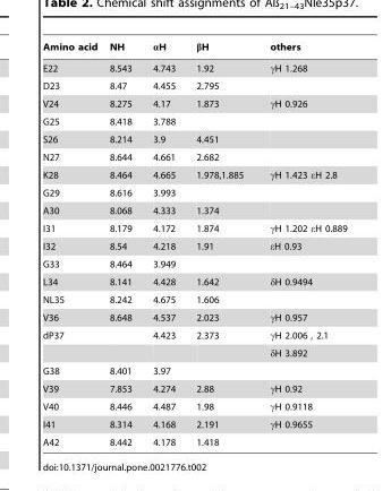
<table><thead><tr><td>Amino acid</td><td>NH</td><td>αH</td><td>βH</td><td>others</td></tr></thead><tbody><tr><td>E22</td><td>8.543</td><td>4.743</td><td>1.92</td><td>γH 1.268</td></tr><tr><td>D23</td><td>8.47</td><td>4.455</td><td>2.795</td><td></td></tr><tr><td>V24</td><td>8.275</td><td>4.17</td><td>1.873</td><td>γH 0.926</td></tr><tr><td>G25</td><td>8.418</td><td>3.788</td><td></td><td></td></tr><tr><td>S26</td><td>8.214</td><td>3.9</td><td>4.451</td><td></td></tr><tr><td>N27</td><td>8.644</td><td>4.661</td><td>2.682</td><td></td></tr><tr><td>K28</td><td>8.464</td><td>4.665</td><td>1.978,1.885</td><td>γH 1.423 εH 2.8</td></tr><tr><td>G29</td><td>8.616</td><td>3.993</td><td></td><td></td></tr><tr><td>A30</td><td>8.068</td><td>4.333</td><td>1.374</td><td></td></tr><tr><td>I31</td><td>8.179</td><td>4.172</td><td>1.874</td><td>γH 1.202 εH 0.889</td></tr><tr><td>I32</td><td>8.54</td><td>4.218</td><td>1.91</td><td>εH 0.93</td></tr><tr><td>G33</td><td>8.464</td><td>3.949</td><td></td><td></td></tr><tr><td>L34</td><td>8.141</td><td>4.428</td><td>1.642</td><td>δH 0.9494</td></tr><tr><td>NL35</td><td>8.242</td><td>4.675</td><td>1.606</td><td></td></tr><tr><td>V36</td><td>8.648</td><td>4.537</td><td>2.023</td><td>γH 0.957</td></tr><tr><td rowspan="2">dP37</td><td></td><td>4.423</td><td>2.373</td><td>γH 2.006 , 2.1</td></tr><tr><td></td><td></td><td></td><td>δH 3.892</td></tr><tr><td>G38</td><td>8.401</td><td>3.97</td><td></td><td></td></tr><tr><td>V39</td><td>7.853</td><td>4.274</td><td>2.88</td><td>γH 0.92</td></tr><tr><td>V40</td><td>8.446</td><td>4.487</td><td>1.98</td><td>γH 0.9118</td></tr><tr><td>I41</td><td>8.314</td><td>4.168</td><td>2.191</td><td>γH 0.9655</td></tr><tr><td>A42</td><td>8.442</td><td>4.178</td><td>1.418</td><td></td></tr></tbody></table>